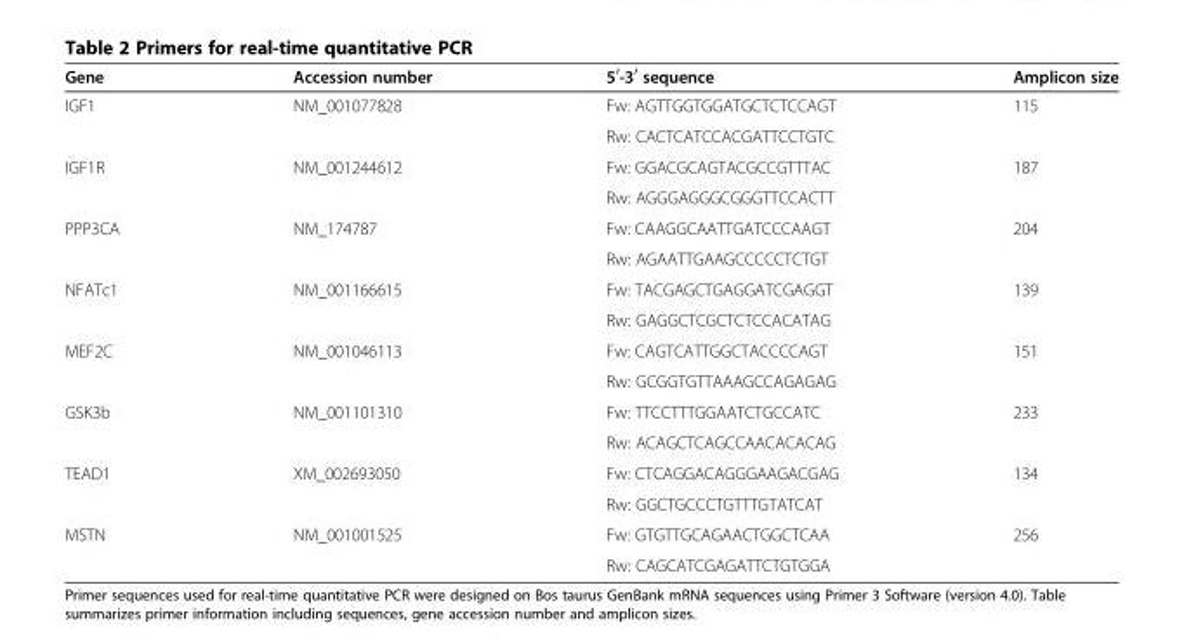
<table><thead><tr><td>Gene</td><td>Accession number</td><td>5<sup>′</sup>-3<sup>′</sup> sequence</td><td>Amplicon size</td></tr></thead><tbody><tr><td rowspan="2">IGF1</td><td>NM_001077828</td><td>Fw: AGTTGGTGGATGCTCTCCAGT</td><td>115</td></tr><tr><td></td><td>Rw: CACTCATCCACGATTCCTGTC</td><td></td></tr><tr><td rowspan="2">IGF1R</td><td>NM_001244612</td><td>Fw: GGACGCAGTACGCCGTTTAC</td><td>187</td></tr><tr><td></td><td>Rw: AGGGAGGGCGGGTTCCACTT</td><td></td></tr><tr><td rowspan="2">PPP3CA</td><td>NM_174787</td><td>Fw: CAAGGCAATTGATCCCAAGT</td><td>204</td></tr><tr><td></td><td>Rw: AGAATTGAAGCCCCCTCTGT</td><td></td></tr><tr><td rowspan="2">NFATc1</td><td>NM_001166615</td><td>Fw: TACGAGCTGAGGATCGAGGT</td><td>139</td></tr><tr><td></td><td>Rw: GAGGCTCGCTCTCCACATAG</td><td></td></tr><tr><td rowspan="2">MEF2C</td><td>NM_001046113</td><td>Fw: CAGTCATTGGCTACCCCAGT</td><td>151</td></tr><tr><td></td><td>Rw: GCGGTGTTAAAGCCAGAGAG</td><td></td></tr><tr><td rowspan="2">GSK3b</td><td>NM_001101310</td><td>Fw: TTCCTTTGGAATCTGCCATC</td><td>233</td></tr><tr><td></td><td>Rw: ACAGCTCAGCCAACACACAG</td><td></td></tr><tr><td rowspan="2">TEAD1</td><td>XM_002693050</td><td>Fw: CTCAGGACAGGGAAGACGAG</td><td>134</td></tr><tr><td></td><td>Rw: GGCTGCCCTGTTTGTATCAT</td><td></td></tr><tr><td rowspan="2">MSTN</td><td>NM_001001525</td><td>Fw: GTGTTGCAGAACTGGCTCAA</td><td>256</td></tr><tr><td></td><td>Rw: CAGCATCGAGATTCTGTGGA</td><td></td></tr></tbody></table>